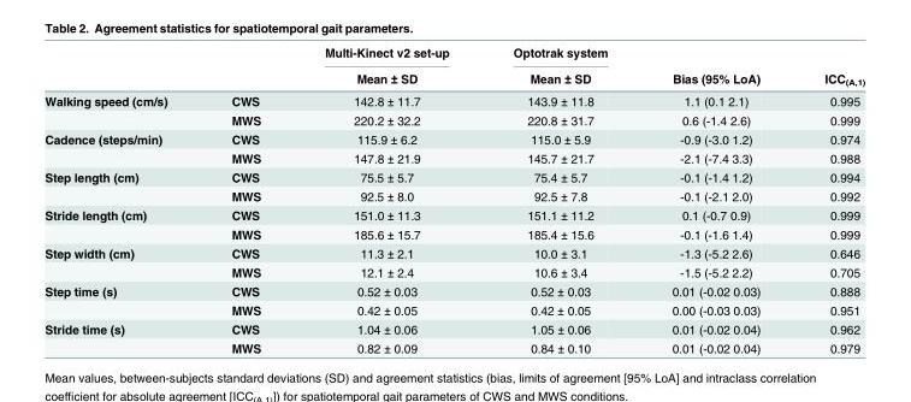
<table><thead><tr><td rowspan="2"></td><td rowspan="2"></td><td rowspan="2">Multi-Kinect v2 set-up Mean ± SD</td><td rowspan="2">Optotrak system Mean ± SD</td><td rowspan="2">Bias (95% LoA)</td><td rowspan="2">ICC<sub>(A,1)</sub></td></tr><tr></tr></thead><tbody><tr><td rowspan="2">Walking speed (cm/s)</td><td>CWS</td><td>142.8 ± 11.7</td><td>143.9 ± 11.8</td><td>1.1 (0.1 2.1)</td><td>0.995</td></tr><tr><td>MWS</td><td>220.2 ± 32.2</td><td>220.8 ± 31.7</td><td>0.6 (-1.4 2.6)</td><td>0.999</td></tr><tr><td rowspan="2">Cadence (steps/min)</td><td>CWS</td><td>115.9 ± 6.2</td><td>115.0 ± 5.9</td><td>-0.9 (-3.0 1.2)</td><td>0.974</td></tr><tr><td>MWS</td><td>147.8 ± 21.9</td><td>145.7 ± 21.7</td><td>-2.1 (-7.4 3.3)</td><td>0.988</td></tr><tr><td rowspan="2">Step length (cm)</td><td>CWS</td><td>75.5 ± 5.7</td><td>75.4 ± 5.7</td><td>-0.1 (-1.4 1.2)</td><td>0.994</td></tr><tr><td>MWS</td><td>92.5 ± 8.0</td><td>92.5 ± 7.8</td><td>-0.1 (-2.1 2.0)</td><td>0.992</td></tr><tr><td rowspan="2">Stride length (cm)</td><td>CWS</td><td>151.0 ± 11.3</td><td>151.1 ± 11.2</td><td>0.1 (-0.7 0.9)</td><td>0.999</td></tr><tr><td>MWS</td><td>185.6 ± 15.7</td><td>185.4 ± 15.6</td><td>-0.1 (-1.6 1.4)</td><td>0.999</td></tr><tr><td rowspan="2">Step width (cm)</td><td>CWS</td><td>11.3 ± 2.1</td><td>10.0 ± 3.1</td><td>-1.3 (-5.2 2.6)</td><td>0.646</td></tr><tr><td>MWS</td><td>12.1 ± 2.4</td><td>10.6 ± 3.4</td><td>-1.5 (-5.2 2.2)</td><td>0.705</td></tr><tr><td rowspan="2">Step time (s)</td><td>CWS</td><td>0.52 ± 0.03</td><td>0.52 ± 0.03</td><td>0.01 (-0.02 0.03)</td><td>0.888</td></tr><tr><td>MWS</td><td>0.42 ± 0.05</td><td>0.42 ± 0.05</td><td>0.00 (-0.03 0.03)</td><td>0.951</td></tr><tr><td rowspan="2">Stride time (s)</td><td>CWS</td><td>1.04 ± 0.06</td><td>1.05 ± 0.06</td><td>0.01 (-0.02 0.04)</td><td>0.962</td></tr><tr><td>MWS</td><td>0.82 ± 0.09</td><td>0.84 ± 0.10</td><td>0.01 (-0.02 0.04)</td><td>0.979</td></tr></tbody></table>